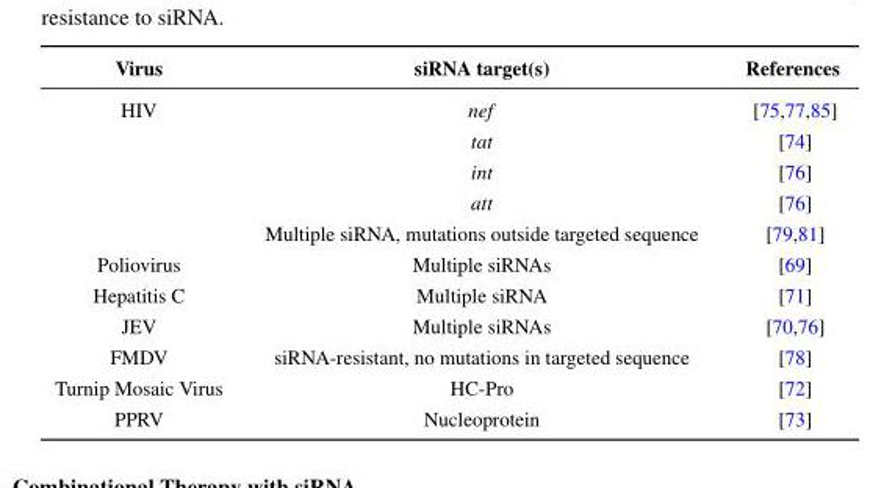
<table><thead><tr><td>Virus</td><td>siRNA target(s)</td><td>References</td></tr></thead><tbody><tr><td rowspan="5">HIV</td><td>nef</td><td>[75,77,85]</td></tr><tr><td>tat</td><td>[74]</td></tr><tr><td>int</td><td>[76]</td></tr><tr><td>att</td><td>[76]</td></tr><tr><td>Multiple siRNA, mutations outside targeted sequence</td><td>[79,81]</td></tr><tr><td>Poliovirus</td><td>Multiple siRNAs</td><td>[69]</td></tr><tr><td>Hepatitis C</td><td>Multiple siRNA</td><td>[71]</td></tr><tr><td>JEV</td><td>Multiple siRNAs</td><td>[70,76]</td></tr><tr><td>FMDV</td><td>siRNA-resistant, no mutations in targeted sequence</td><td>[78]</td></tr><tr><td>Turnip Mosaic Virus</td><td>HC-Pro</td><td>[72]</td></tr><tr><td>PPRV</td><td>Nucleoprotein</td><td>[73]</td></tr></tbody></table>